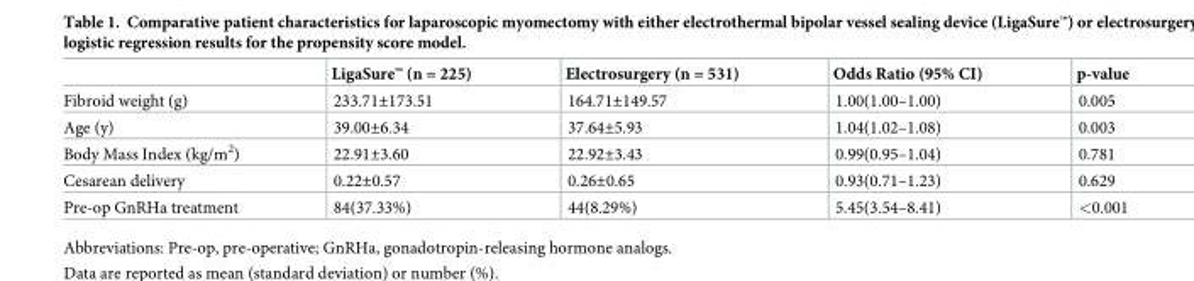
<table><thead><tr><td></td><td>LigaSure™ (n = 225)</td><td>Electrosurgery (n = 531)</td><td>Odds Ratio (95% CI)</td><td>p-value</td></tr></thead><tbody><tr><td>Fibroid weight (g)</td><td>233.71±173.51</td><td>164.71±149.57</td><td>1.00(1.00–1.00)</td><td>0.005</td></tr><tr><td>Age (y)</td><td>39.00±6.34</td><td>37.64±5.93</td><td>1.04(1.02–1.08)</td><td>0.003</td></tr><tr><td>Body Mass Index (kg/m<sup>2</sup>)</td><td>22.91±3.60</td><td>22.92±3.43</td><td>0.99(0.95–1.04)</td><td>0.781</td></tr><tr><td>Cesarean delivery</td><td>0.22±0.57</td><td>0.26±0.65</td><td>0.93(0.71–1.23)</td><td>0.629</td></tr><tr><td>Pre-op GnRHa treatment</td><td>84(37.33%)</td><td>44(8.29%)</td><td>5.45(3.54–8.41)</td><td>&lt;0.001</td></tr></tbody></table>